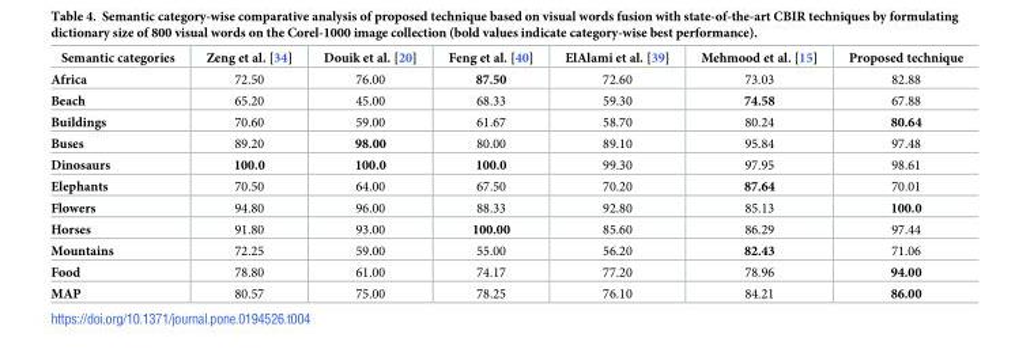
<table><thead><tr><td>Semantic categories</td><td>Zeng et al. [34]</td><td>Douik et al. [20]</td><td>Feng et al. [40]</td><td>ElAlami et al. [39]</td><td>Mehmood et al. [15]</td><td>Proposed technique</td></tr></thead><tbody><tr><td>Africa</td><td>72.50</td><td>76.00</td><td>87.50</td><td>72.60</td><td>73.03</td><td>82.88</td></tr><tr><td>Beach</td><td>65.20</td><td>45.00</td><td>68.33</td><td>59.30</td><td>74.58</td><td>67.88</td></tr><tr><td>Buildings</td><td>70.60</td><td>59.00</td><td>61.67</td><td>58.70</td><td>80.24</td><td>80.64</td></tr><tr><td>Buses</td><td>89.20</td><td>98.00</td><td>80.00</td><td>89.10</td><td>95.84</td><td>97.48</td></tr><tr><td>Dinosaurs</td><td>100.0</td><td>100.0</td><td>100.0</td><td>99.30</td><td>97.95</td><td>98.61</td></tr><tr><td>Elephants</td><td>70.50</td><td>64.00</td><td>67.50</td><td>70.20</td><td>87.64</td><td>70.01</td></tr><tr><td>Flowers</td><td>94.80</td><td>96.00</td><td>88.33</td><td>92.80</td><td>85.13</td><td>100.0</td></tr><tr><td>Horses</td><td>91.80</td><td>93.00</td><td>100.00</td><td>85.60</td><td>86.29</td><td>97.44</td></tr><tr><td>Mountains</td><td>72.25</td><td>59.00</td><td>55.00</td><td>56.20</td><td>82.43</td><td>71.06</td></tr><tr><td>Food</td><td>78.80</td><td>61.00</td><td>74.17</td><td>77.20</td><td>78.96</td><td>94.00</td></tr><tr><td>MAP</td><td>80.57</td><td>75.00</td><td>78.25</td><td>76.10</td><td>84.21</td><td>86.00</td></tr></tbody></table>